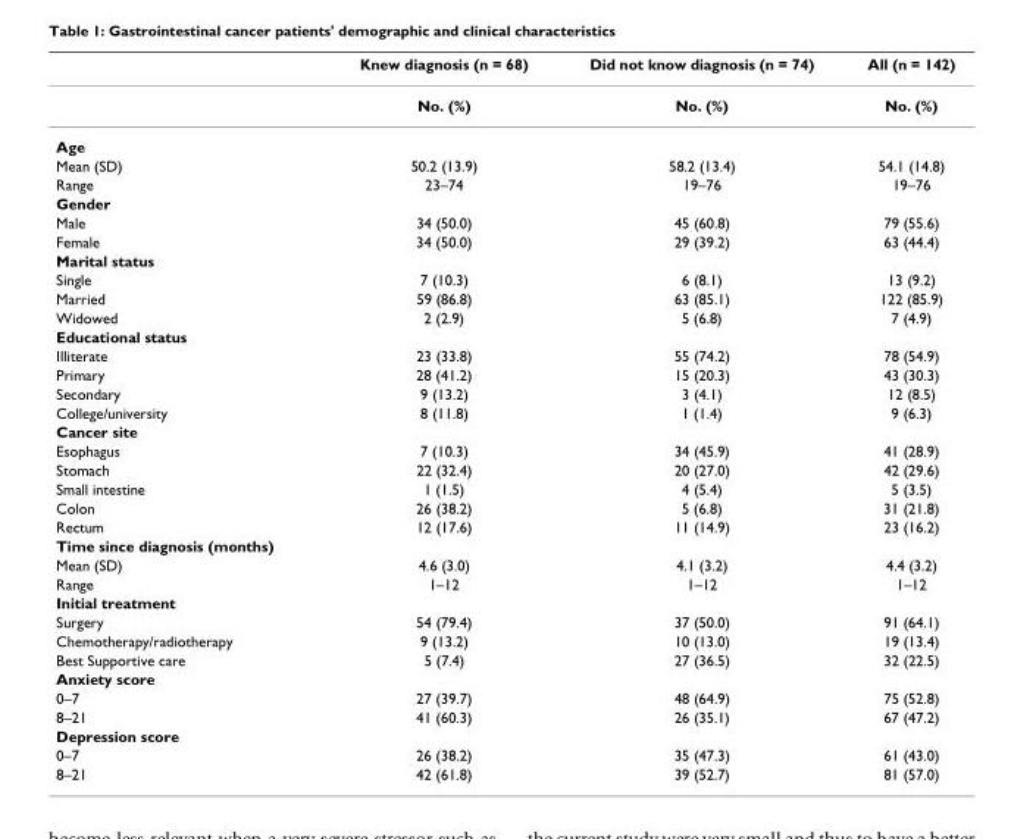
<table><thead><tr><td></td><td>Knew diagnosis (n = 68)</td><td>Did not know diagnosis (n = 74)</td><td>All (n = 142)</td></tr></thead><tbody><tr><td></td><td>No. (%)</td><td>No. (%)</td><td>No. (%)</td></tr><tr><td colspan="4">Age</td></tr><tr><td>Mean (SD)</td><td>50.2 (13.9)</td><td>58.2 (13.4)</td><td>54.1 (14.8)</td></tr><tr><td>Range</td><td>23–74</td><td>19–76</td><td>19–76</td></tr><tr><td colspan="4">Gender</td></tr><tr><td>Male</td><td>34 (50.0)</td><td>45 (60.8)</td><td>79 (55.6)</td></tr><tr><td>Female</td><td>34 (50.0)</td><td>29 (39.2)</td><td>63 (44.4)</td></tr><tr><td colspan="4">Marital status</td></tr><tr><td>Single</td><td>7 (10.3)</td><td>6 (8.1)</td><td>13 (9.2)</td></tr><tr><td>Married</td><td>59 (86.8)</td><td>63 (85.1)</td><td>122 (85.9)</td></tr><tr><td>Widowed</td><td>2 (2.9)</td><td>5 (6.8)</td><td>7 (4.9)</td></tr><tr><td colspan="4">Educational status</td></tr><tr><td>Illiterate</td><td>23 (33.8)</td><td>55 (74.2)</td><td>78 (54.9)</td></tr><tr><td>Primary</td><td>28 (41.2)</td><td>15 (20.3)</td><td>43 (30.3)</td></tr><tr><td>Secondary</td><td>9 (13.2)</td><td>3 (4.1)</td><td>12 (8.5)</td></tr><tr><td>College/university</td><td>8 (11.8)</td><td>1 (1.4)</td><td>9 (6.3)</td></tr><tr><td colspan="4">Cancer site</td></tr><tr><td>Esophagus</td><td>7 (10.3)</td><td>34 (45.9)</td><td>41 (28.9)</td></tr><tr><td>Stomach</td><td>22 (32.4)</td><td>20 (27.0)</td><td>42 (29.6)</td></tr><tr><td>Small intestine</td><td>1 (1.5)</td><td>4 (5.4)</td><td>5 (3.5)</td></tr><tr><td>Colon</td><td>26 (38.2)</td><td>5 (6.8)</td><td>31 (21.8)</td></tr><tr><td>Rectum</td><td>12 (17.6)</td><td>11 (14.9)</td><td>23 (16.2)</td></tr><tr><td colspan="4">Time since diagnosis (months)</td></tr><tr><td>Mean (SD)</td><td>4.6 (3.0)</td><td>4.1 (3.2)</td><td>4.4 (3.2)</td></tr><tr><td>Range</td><td>1–12</td><td>1–12</td><td>1–12</td></tr><tr><td colspan="4">Initial treatment</td></tr><tr><td>Surgery</td><td>54 (79.4)</td><td>37 (50.0)</td><td>91 (64.1)</td></tr><tr><td>Chemotherapy/radiotherapy</td><td>9 (13.2)</td><td>10 (13.0)</td><td>19 (13.4)</td></tr><tr><td>Best Supportive care</td><td>5 (7.4)</td><td>27 (36.5)</td><td>32 (22.5)</td></tr><tr><td colspan="4">Anxiety score</td></tr><tr><td>0–7</td><td>27 (39.7)</td><td>48 (64.9)</td><td>75 (52.8)</td></tr><tr><td>8–21</td><td>41 (60.3)</td><td>26 (35.1)</td><td>67 (47.2)</td></tr><tr><td colspan="4">Depression score</td></tr><tr><td>0–7</td><td>26 (38.2)</td><td>35 (47.3)</td><td>61 (43.0)</td></tr><tr><td>8–21</td><td>42 (61.8)</td><td>39 (52.7)</td><td>81 (57.0)</td></tr></tbody></table>